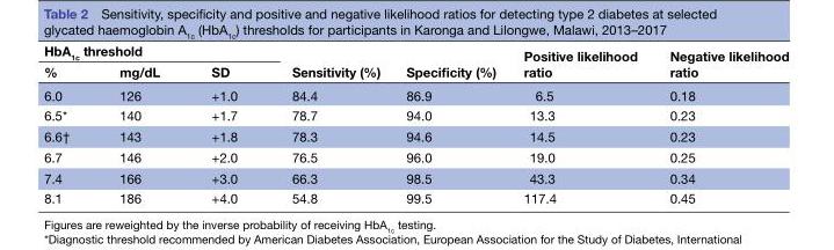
<table><thead><tr><td colspan="3">HbA<sub>1c</sub> threshold</td><td rowspan="2">Sensitivity (%)</td><td rowspan="2">Specificity (%)</td><td rowspan="2">Positive likelihood ratio</td><td rowspan="2">Negative likelihood ratio</td></tr><tr><td>%</td><td>mg/dL</td><td>SD</td></tr></thead><tbody><tr><td>6.0</td><td>126</td><td>+1.0</td><td>84.4</td><td>86.9</td><td>6.5</td><td>0.18</td></tr><tr><td>6.5*</td><td>140</td><td>+1.7</td><td>78.7</td><td>94.0</td><td>13.3</td><td>0.23</td></tr><tr><td>6.6†</td><td>143</td><td>+1.8</td><td>78.3</td><td>94.6</td><td>14.5</td><td>0.23</td></tr><tr><td>6.7</td><td>146</td><td>+2.0</td><td>76.5</td><td>96.0</td><td>19.0</td><td>0.25</td></tr><tr><td>7.4</td><td>166</td><td>+3.0</td><td>66.3</td><td>98.5</td><td>43.3</td><td>0.34</td></tr><tr><td>8.1</td><td>186</td><td>+4.0</td><td>54.8</td><td>99.5</td><td>117.4</td><td>0.45</td></tr></tbody></table>